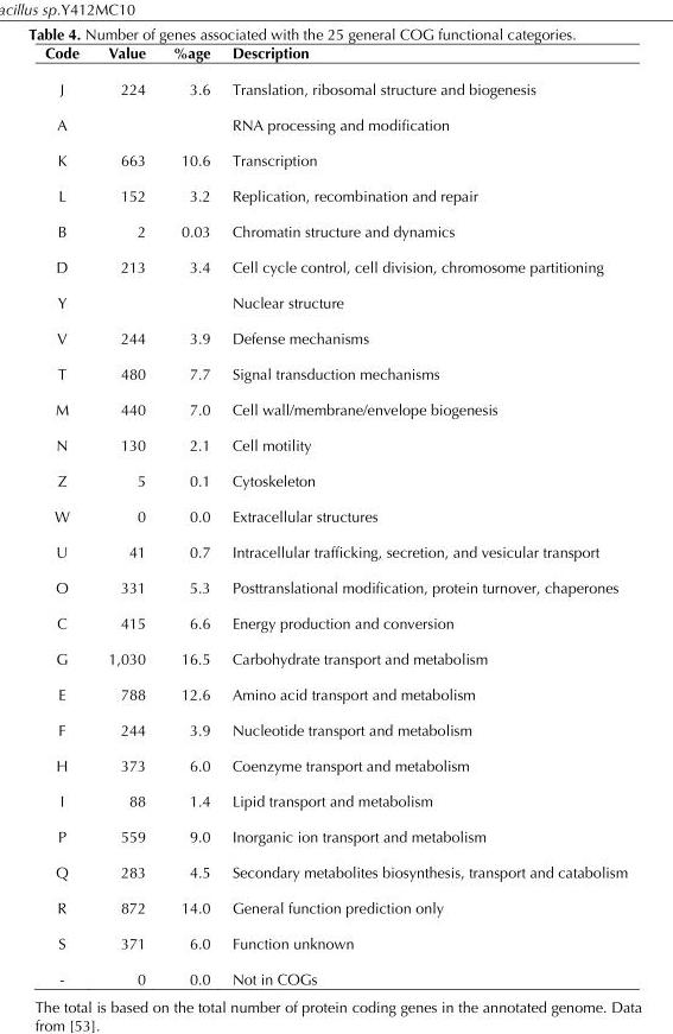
<table><thead><tr><td>Code</td><td>Value</td><td>%age</td><td>Description</td></tr></thead><tbody><tr><td>J</td><td>224</td><td>3.6</td><td>Translation, ribosomal structure and biogenesis</td></tr><tr><td>A</td><td></td><td></td><td>RNA processing and modification</td></tr><tr><td>K</td><td>663</td><td>10.6</td><td>Transcription</td></tr><tr><td>L</td><td>152</td><td>3.2</td><td>Replication, recombination and repair</td></tr><tr><td>B</td><td>2</td><td>0.03</td><td>Chromatin structure and dynamics</td></tr><tr><td>D</td><td>213</td><td>3.4</td><td>Cell cycle control, cell division, chromosome partitioning</td></tr><tr><td>Y</td><td></td><td></td><td>Nuclear structure</td></tr><tr><td>V</td><td>244</td><td>3.9</td><td>Defense mechanisms</td></tr><tr><td>T</td><td>480</td><td>7.7</td><td>Signal transduction mechanisms</td></tr><tr><td>M</td><td>440</td><td>7.0</td><td>Cell wall/membrane/envelope biogenesis</td></tr><tr><td>N</td><td>130</td><td>2.1</td><td>Cell motility</td></tr><tr><td>Z</td><td>5</td><td>0.1</td><td>Cytoskeleton</td></tr><tr><td>W</td><td>0</td><td>0.0</td><td>Extracellular structures</td></tr><tr><td>U</td><td>41</td><td>0.7</td><td>Intracellular trafficking, secretion, and vesicular transport</td></tr><tr><td>O</td><td>331</td><td>5.3</td><td>Posttranslational modification, protein turnover, chaperones</td></tr><tr><td>C</td><td>415</td><td>6.6</td><td>Energy production and conversion</td></tr><tr><td>G</td><td>1,030</td><td>16.5</td><td>Carbohydrate transport and metabolism</td></tr><tr><td>E</td><td>788</td><td>12.6</td><td>Amino acid transport and metabolism</td></tr><tr><td>F</td><td>244</td><td>3.9</td><td>Nucleotide transport and metabolism</td></tr><tr><td>H</td><td>373</td><td>6.0</td><td>Coenzyme transport and metabolism</td></tr><tr><td>I</td><td>88</td><td>1.4</td><td>Lipid transport and metabolism</td></tr><tr><td>P</td><td>559</td><td>9.0</td><td>Inorganic ion transport and metabolism</td></tr><tr><td>Q</td><td>283</td><td>4.5</td><td>Secondary metabolites biosynthesis, transport and catabolism</td></tr><tr><td>R</td><td>872</td><td>14.0</td><td>General function prediction only</td></tr><tr><td>S</td><td>371</td><td>6.0</td><td>Function unknown</td></tr><tr><td>-</td><td>0</td><td>0.0</td><td>Not in COGs</td></tr></tbody></table>